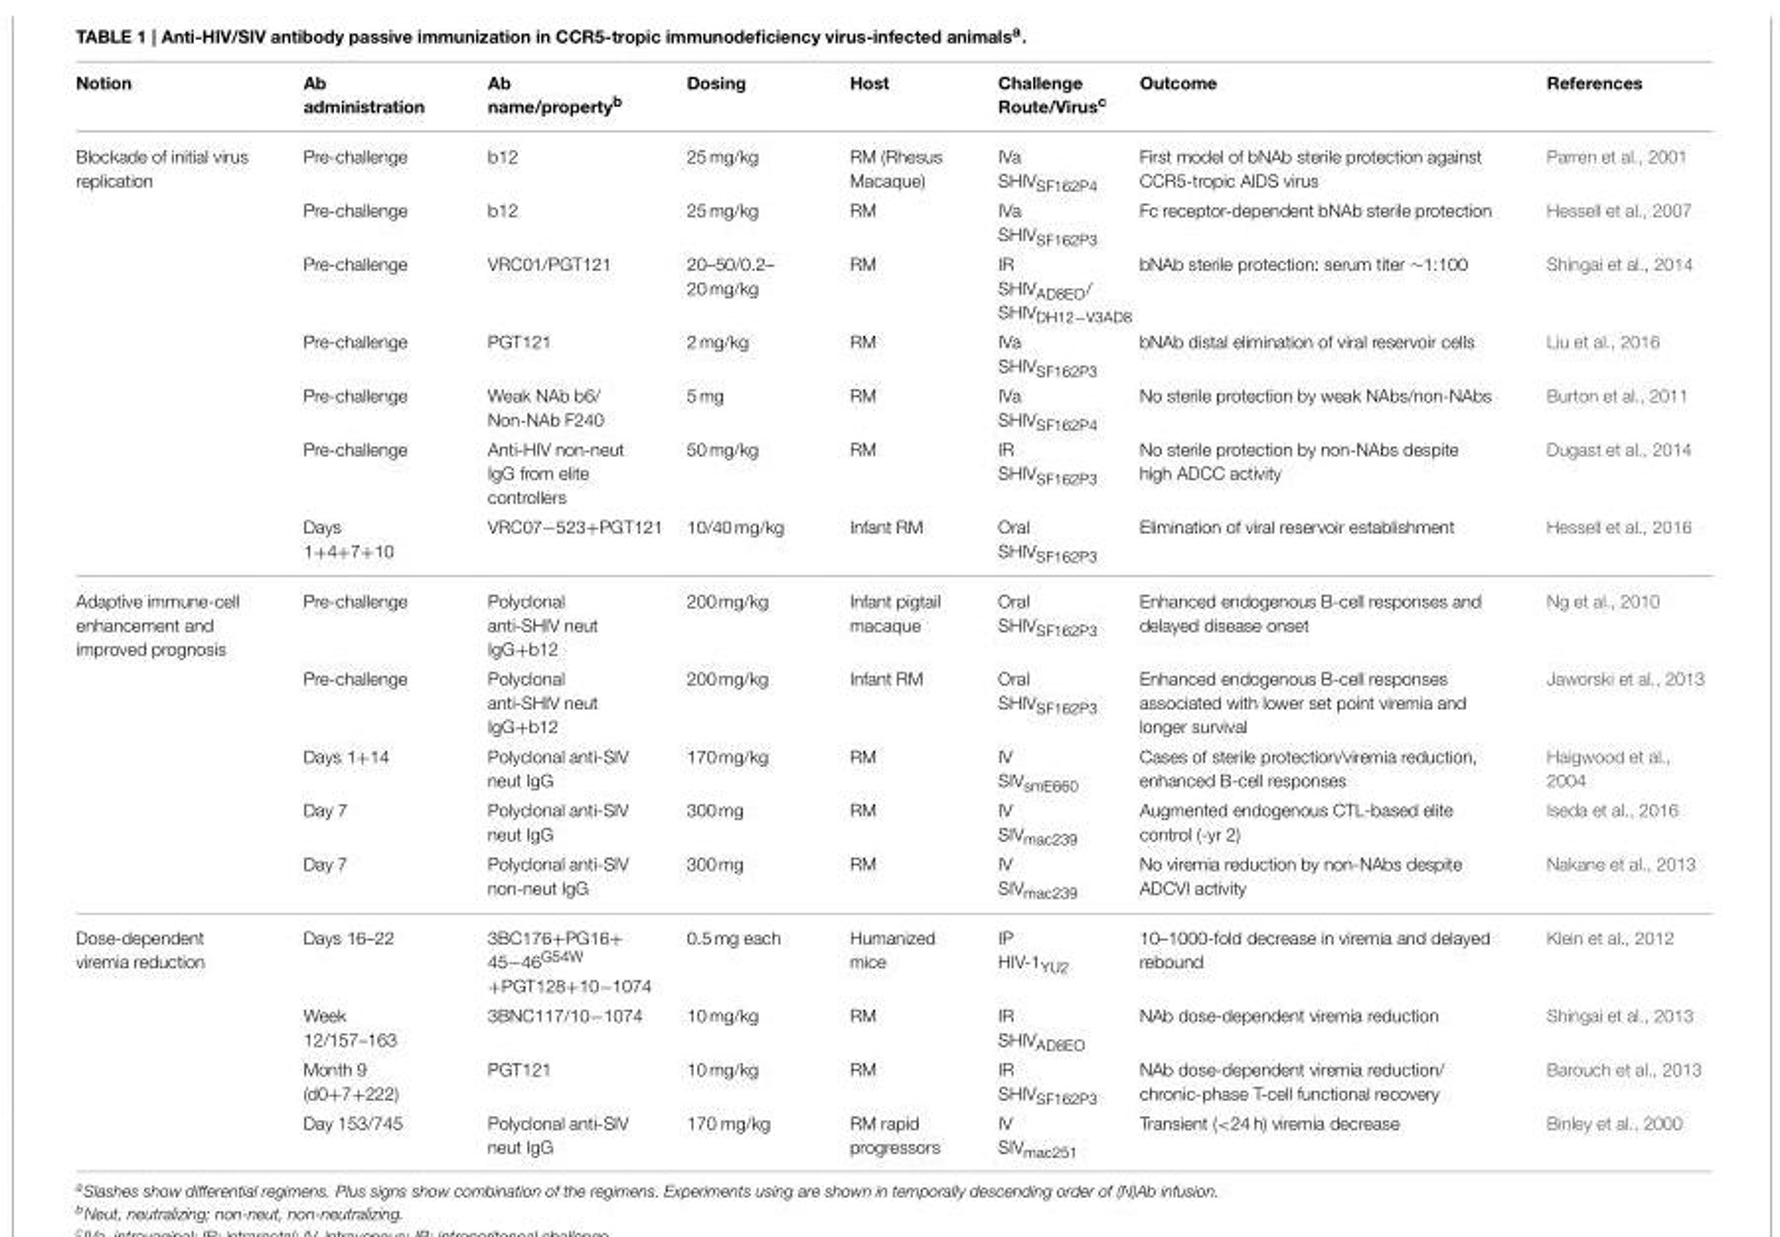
<table><thead><tr><td>Notion</td><td>Ab administration</td><td>Ab name/property<sup>b</sup></td><td>Dosing</td><td>Host</td><td>Challenge Route/Virus<sup>c</sup></td><td>Outcome</td><td>References</td></tr></thead><tbody><tr><td rowspan="7">Blockade of initial virus replication</td><td>Pre-challenge</td><td>b12</td><td>25 mg/kg</td><td>RM (Rhesus Macaque)</td><td>IVa SHIV<sub>SF162P4</sub></td><td>First model of bNAb sterile protection against CCR5-tropic AIDS virus</td><td>Parren et al., 2001</td></tr><tr><td>Pre-challenge</td><td>b12</td><td>25 mg/kg</td><td>RM</td><td>IVa SHIV<sub>SF162P3</sub></td><td>Fc receptor-dependent bNAb sterile protection</td><td>Hessell et al., 2007</td></tr><tr><td>Pre-challenge</td><td>VRC01/PGT121</td><td>20–50/0.2– 20 mg/kg</td><td>RM</td><td>IR SHIV<sub>AD8EO</sub>/ SHIV<sub>DH12−V3AD8</sub></td><td>bNAb sterile protection: serum titer ∼1:100</td><td>Shingai et al., 2014</td></tr><tr><td>Pre-challenge</td><td>PGT121</td><td>2 mg/kg</td><td>RM</td><td>IVa SHIV<sub>SF162P3</sub></td><td>bNAb distal elimination of viral reservoir cells</td><td>Liu et al., 2016</td></tr><tr><td>Pre-challenge</td><td>Weak NAb b6/ Non-NAb F240</td><td>5 mg</td><td>RM</td><td>IVa SHIV<sub>SF162P4</sub></td><td>No sterile protection by weak NAbs/non-NAbs</td><td>Burton et al., 2011</td></tr><tr><td>Pre-challenge</td><td>Anti-HIV non-neut IgG from elite controllers</td><td>50 mg/kg</td><td>RM</td><td>IR SHIV<sub>SF162P3</sub></td><td>No sterile protection by non-NAbs despite high ADCC activity</td><td>Dugast et al., 2014</td></tr><tr><td>Days 1+4+7+10</td><td>VRC07−523+PGT121</td><td>10/40 mg/kg</td><td>Infant RM</td><td>Oral SHIV<sub>SF162P3</sub></td><td>Elimination of viral reservoir establishment</td><td>Hessell et al., 2016</td></tr><tr><td rowspan="5">Adaptive immune-cell enhancement and improved prognosis</td><td>Pre-challenge</td><td>Polyclonal anti-SHIV neut IgG+b12</td><td>200 mg/kg</td><td>Infant pigtail macaque</td><td>Oral SHIV<sub>SF162P3</sub></td><td>Enhanced endogenous B-cell responses and delayed disease onset</td><td>Ng et al., 2010</td></tr><tr><td>Pre-challenge</td><td>Polyclonal anti-SHIV neut IgG+b12</td><td>200 mg/kg</td><td>Infant RM</td><td>Oral SHIV<sub>SF162P3</sub></td><td>Enhanced endogenous B-cell responses associated with lower set point viremia and longer survival</td><td>Jaworski et al., 2013</td></tr><tr><td>Days 1+14</td><td>Polyclonal anti-SIV neut IgG</td><td>170 mg/kg</td><td>RM</td><td>IV SIV<sub>smE660</sub></td><td>Cases of sterile protection/viremia reduction, enhanced B-cell responses</td><td>Haigwood et al., 2004</td></tr><tr><td>Day 7</td><td>Polyclonal anti-SIV neut IgG</td><td>300 mg</td><td>RM</td><td>IV SIV<sub>mac239</sub></td><td>Augmented endogenous CTL-based elite control (-yr 2)</td><td>Iseda et al., 2016</td></tr><tr><td>Day 7</td><td>Polyclonal anti-SIV non-neut IgG</td><td>300 mg</td><td>RM</td><td>IV SIV<sub>mac239</sub></td><td>No viremia reduction by non-NAbs despite ADCVI activity</td><td>Nakane et al., 2013</td></tr><tr><td rowspan="4">Dose-dependent viremia reduction</td><td>Days 16–22</td><td>3BC176+PG16+ 45−46<sup>G54W</sup> +PGT128+10−1074</td><td>0.5 mg each</td><td>Humanized mice</td><td>IP HIV-1<sub>YU2</sub></td><td>10–1000-fold decrease in viremia and delayed rebound</td><td>Klein et al., 2012</td></tr><tr><td>Week 12/157–163</td><td>3BNC117/10−1074</td><td>10 mg/kg</td><td>RM</td><td>IR SHIV<sub>AD8EO</sub></td><td>NAb dose-dependent viremia reduction</td><td>Shingai et al., 2013</td></tr><tr><td>Month 9 (d0+7+222)</td><td>PGT121</td><td>10 mg/kg</td><td>RM</td><td>IR SHIV<sub>SF162P3</sub></td><td>NAb dose-dependent viremia reduction/ chronic-phase T-cell functional recovery</td><td>Barouch et al., 2013</td></tr><tr><td>Day 153/745</td><td>Polyclonal anti-SIV neut IgG</td><td>170 mg/kg</td><td>RM rapid progressors</td><td>IV SIV<sub>mac251</sub></td><td>Transient (&lt;24 h) viremia decrease</td><td>Binley et al., 2000</td></tr></tbody></table>